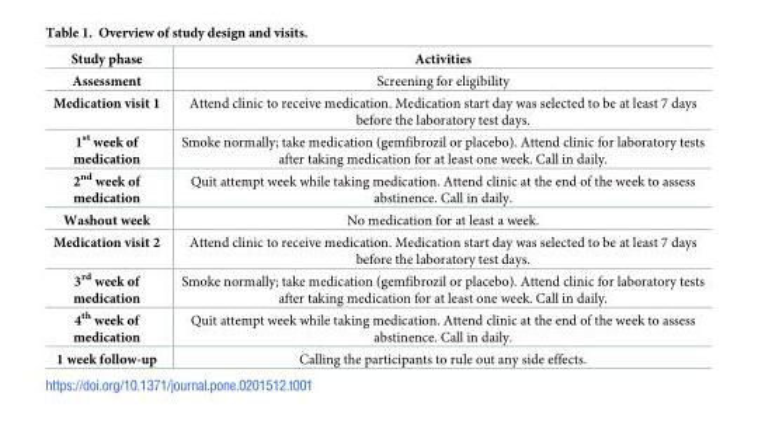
<table><thead><tr><td>Study phase</td><td>Activities</td></tr></thead><tbody><tr><td>Assessment</td><td>Screening for eligibility</td></tr><tr><td>Medication visit 1</td><td>Attend clinic to receive medication. Medication start day was selected to be at least 7 days before the laboratory test days.</td></tr><tr><td>1<sup>st</sup> week of medication</td><td>Smoke normally; take medication (gemfibrozil or placebo). Attend clinic for laboratory tests after taking medication for at least one week. Call in daily.</td></tr><tr><td>2<sup>nd</sup> week of medication</td><td>Quit attempt week while taking medication. Attend clinic at the end of the week to assess abstinence. Call in daily.</td></tr><tr><td>Washout week</td><td>No medication for at least a week.</td></tr><tr><td>Medication visit 2</td><td>Attend clinic to receive medication. Medication start day was selected to be at least 7 days before the laboratory test days.</td></tr><tr><td>3<sup>rd</sup> week of medication</td><td>Smoke normally; take medication (gemfibrozil or placebo). Attend clinic for laboratory tests after taking medication for at least one week. Call in daily.</td></tr><tr><td>4<sup>th</sup> week of medication</td><td>Quit attempt week while taking medication. Attend clinic at the end of the week to assess abstinence. Call in daily.</td></tr><tr><td>1 week follow-up</td><td>Calling the participants to rule out any side effects.</td></tr></tbody></table>